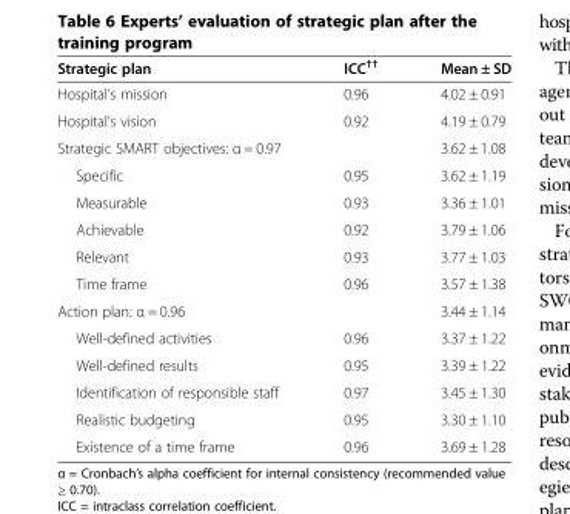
<table><thead><tr><td>Strategic plan</td><td>ICC<sup>††</sup></td><td>Mean ± SD</td></tr></thead><tbody><tr><td>Hospital’s mission</td><td>0.96</td><td>4.02 ± 0.91</td></tr><tr><td>Hospital’s vision</td><td>0.92</td><td>4.19 ± 0.79</td></tr><tr><td>Strategic SMART objectives: α = 0.97</td><td></td><td>3.62 ± 1.08</td></tr><tr><td>Specific</td><td>0.95</td><td>3.62 ± 1.19</td></tr><tr><td>Measurable</td><td>0.93</td><td>3.36 ± 1.01</td></tr><tr><td>Achievable</td><td>0.92</td><td>3.79 ± 1.06</td></tr><tr><td>Relevant</td><td>0.93</td><td>3.77 ± 1.03</td></tr><tr><td>Time frame</td><td>0.96</td><td>3.57 ± 1.38</td></tr><tr><td>Action plan: α = 0.96</td><td></td><td>3.44 ± 1.14</td></tr><tr><td>Well-defined activities</td><td>0.96</td><td>3.37 ± 1.22</td></tr><tr><td>Well-defined results</td><td>0.95</td><td>3.39 ± 1.22</td></tr><tr><td>Identification of responsible staff</td><td>0.97</td><td>3.45 ± 1.30</td></tr><tr><td>Realistic budgeting</td><td>0.95</td><td>3.30 ± 1.10</td></tr><tr><td>Existence of a time frame</td><td>0.96</td><td>3.69 ± 1.28</td></tr></tbody></table>